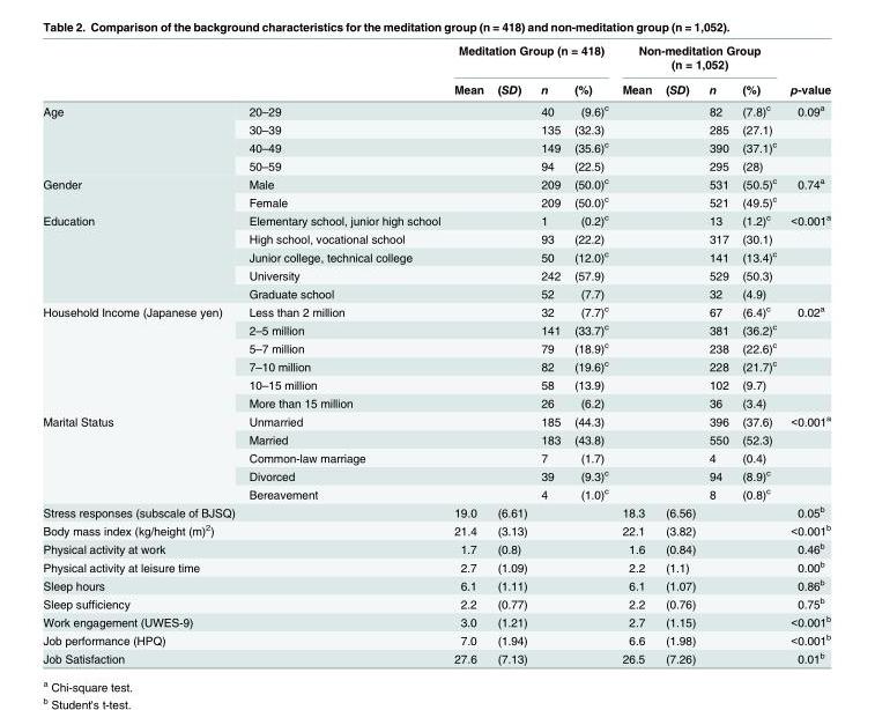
<table><thead><tr><td rowspan="2"></td><td rowspan="2"></td><td colspan="4">Meditation Group (n = 418)</td><td colspan="4">Non-meditation Group (n = 1,052)</td><td rowspan="2">p-value</td></tr><tr><td>Mean</td><td>(SD)</td><td>n</td><td>(%)</td><td>Mean</td><td>(SD)</td><td>n</td><td>(%)</td></tr></thead><tbody><tr><td rowspan="4">Age</td><td>20–29</td><td></td><td></td><td>40</td><td>(9.6)<sup>c</sup></td><td></td><td></td><td>82</td><td>(7.8)<sup>c</sup></td><td>0.09<sup>a</sup></td></tr><tr><td>30–39</td><td></td><td></td><td>135</td><td>(32.3)</td><td></td><td></td><td>285</td><td>(27.1)</td><td></td></tr><tr><td>40–49</td><td></td><td></td><td>149</td><td>(35.6)<sup>c</sup></td><td></td><td></td><td>390</td><td>(37.1)<sup>c</sup></td><td></td></tr><tr><td>50–59</td><td></td><td></td><td>94</td><td>(22.5)</td><td></td><td></td><td>295</td><td>(28)</td><td></td></tr><tr><td rowspan="2">Gender</td><td>Male</td><td></td><td></td><td>209</td><td>(50.0)<sup>c</sup></td><td></td><td></td><td>531</td><td>(50.5)<sup>c</sup></td><td>0.74<sup>a</sup></td></tr><tr><td>Female</td><td></td><td></td><td>209</td><td>(50.0)<sup>c</sup></td><td></td><td></td><td>521</td><td>(49.5)<sup>c</sup></td><td></td></tr><tr><td rowspan="5">Education</td><td>Elementary school, junior high school</td><td></td><td></td><td>1</td><td>(0.2)<sup>c</sup></td><td></td><td></td><td>13</td><td>(1.2)<sup>c</sup></td><td>&lt;0.001<sup>a</sup></td></tr><tr><td>High school, vocational school</td><td></td><td></td><td>93</td><td>(22.2)</td><td></td><td></td><td>317</td><td>(30.1)</td><td></td></tr><tr><td>Junior college, technical college</td><td></td><td></td><td>50</td><td>(12.0)<sup>c</sup></td><td></td><td></td><td>141</td><td>(13.4)<sup>c</sup></td><td></td></tr><tr><td>University</td><td></td><td></td><td>242</td><td>(57.9)</td><td></td><td></td><td>529</td><td>(50.3)</td><td></td></tr><tr><td>Graduate school</td><td></td><td></td><td>52</td><td>(7.7)</td><td></td><td></td><td>32</td><td>(4.9)</td><td></td></tr><tr><td rowspan="6">Household Income (Japanese yen)</td><td>Less than 2 million</td><td></td><td></td><td>32</td><td>(7.7)<sup>c</sup></td><td></td><td></td><td>67</td><td>(6.4)<sup>c</sup></td><td>0.02<sup>a</sup></td></tr><tr><td>2–5 million</td><td></td><td></td><td>141</td><td>(33.7)<sup>c</sup></td><td></td><td></td><td>381</td><td>(36.2)<sup>c</sup></td><td></td></tr><tr><td>5–7 million</td><td></td><td></td><td>79</td><td>(18.9)<sup>c</sup></td><td></td><td></td><td>238</td><td>(22.6)<sup>c</sup></td><td></td></tr><tr><td>7–10 million</td><td></td><td></td><td>82</td><td>(19.6)<sup>c</sup></td><td></td><td></td><td>228</td><td>(21.7)<sup>c</sup></td><td></td></tr><tr><td>10–15 million</td><td></td><td></td><td>58</td><td>(13.9)</td><td></td><td></td><td>102</td><td>(9.7)</td><td></td></tr><tr><td>More than 15 million</td><td></td><td></td><td>26</td><td>(6.2)</td><td></td><td></td><td>36</td><td>(3.4)</td><td></td></tr><tr><td rowspan="5">Marital Status</td><td>Unmarried</td><td></td><td></td><td>185</td><td>(44.3)</td><td></td><td></td><td>396</td><td>(37.6)</td><td>&lt;0.001<sup>a</sup></td></tr><tr><td>Married</td><td></td><td></td><td>183</td><td>(43.8)</td><td></td><td></td><td>550</td><td>(52.3)</td><td></td></tr><tr><td>Common-law marriage</td><td></td><td></td><td>7</td><td>(1.7)</td><td></td><td></td><td>4</td><td>(0.4)</td><td></td></tr><tr><td>Divorced</td><td></td><td></td><td>39</td><td>(9.3)<sup>c</sup></td><td></td><td></td><td>94</td><td>(8.9)<sup>c</sup></td><td></td></tr><tr><td>Bereavement</td><td></td><td></td><td>4</td><td>(1.0)<sup>c</sup></td><td></td><td></td><td>8</td><td>(0.8)<sup>c</sup></td><td></td></tr><tr><td>Stress responses (subscale of BJSQ)</td><td></td><td>19.0</td><td>(6.61)</td><td></td><td></td><td>18.3</td><td>(6.56)</td><td></td><td></td><td>0.05<sup>b</sup></td></tr><tr><td>Body mass index (kg/height (m)<sup>2</sup>)</td><td></td><td>21.4</td><td>(3.13)</td><td></td><td></td><td>22.1</td><td>(3.82)</td><td></td><td></td><td>&lt;0.001<sup>b</sup></td></tr><tr><td>Physical activity at work</td><td></td><td>1.7</td><td>(0.8)</td><td></td><td></td><td>1.6</td><td>(0.84)</td><td></td><td></td><td>0.46<sup>b</sup></td></tr><tr><td>Physical activity at leisure time</td><td></td><td>2.7</td><td>(1.09)</td><td></td><td></td><td>2.2</td><td>(1.1)</td><td></td><td></td><td>0.00<sup>b</sup></td></tr><tr><td>Sleep hours</td><td></td><td>6.1</td><td>(1.11)</td><td></td><td></td><td>6.1</td><td>(1.07)</td><td></td><td></td><td>0.86<sup>b</sup></td></tr><tr><td>Sleep sufficiency</td><td></td><td>2.2</td><td>(0.77)</td><td></td><td></td><td>2.2</td><td>(0.76)</td><td></td><td></td><td>0.75<sup>b</sup></td></tr><tr><td>Work engagement (UWES-9)</td><td></td><td>3.0</td><td>(1.21)</td><td></td><td></td><td>2.7</td><td>(1.15)</td><td></td><td></td><td>&lt;0.001<sup>b</sup></td></tr><tr><td>Job performance (HPQ)</td><td></td><td>7.0</td><td>(1.94)</td><td></td><td></td><td>6.6</td><td>(1.98)</td><td></td><td></td><td>&lt;0.001<sup>b</sup></td></tr><tr><td>Job Satisfaction</td><td></td><td>27.6</td><td>(7.13)</td><td></td><td></td><td>26.5</td><td>(7.26)</td><td></td><td></td><td>0.01<sup>b</sup></td></tr></tbody></table>